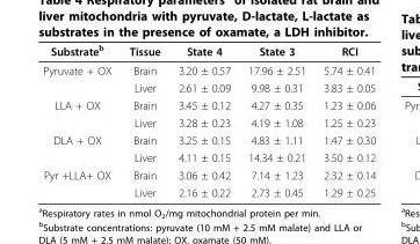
<table><thead><tr><td>Substrate<sup>b</sup></td><td>Tissue</td><td>State 4</td><td>State 3</td><td>RCI</td></tr></thead><tbody><tr><td rowspan="2">Pyruvate + OX</td><td>Brain</td><td>3.20 ± 0.57</td><td>17.96 ± 2.51</td><td>5.74 ± 0.41</td></tr><tr><td>Liver</td><td>2.61 ± 0.09</td><td>9.98 ± 0.31</td><td>3.83 ± 0.05</td></tr><tr><td rowspan="2">LLA + OX</td><td>Brain</td><td>3.45 ± 0.12</td><td>4.27 ± 0.35</td><td>1.23 ± 0.06</td></tr><tr><td>Liver</td><td>3.28 ± 0.23</td><td>4.19 ± 1.08</td><td>1.25 ± 0.23</td></tr><tr><td rowspan="2">DLA + OX</td><td>Brain</td><td>3.25 ± 0.15</td><td>4.83 ± 1.11</td><td>1.47 ± 0.30</td></tr><tr><td>Liver</td><td>4.11 ± 0.15</td><td>14.34 ± 0.21</td><td>3.50 ± 0.12</td></tr><tr><td rowspan="2">Pyr +LLA+ OX</td><td>Brain</td><td>3.06 ± 0.42</td><td>7.14 ± 1.23</td><td>2.32 ± 0.14</td></tr><tr><td>Liver</td><td>2.16 ± 0.22</td><td>2.73 ± 0.45</td><td>1.29 ± 0.25</td></tr></tbody></table>